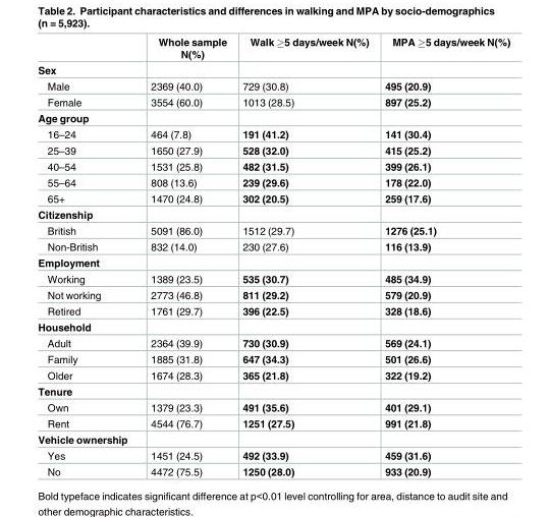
<table><thead><tr><td></td><td>Whole sample N(%)</td><td>Walk ≥5 days/week N(%)</td><td>MPA ≥5 days/week N(%)</td></tr></thead><tbody><tr><td colspan="4">Sex</td></tr><tr><td>Male</td><td>2369 (40.0)</td><td>729 (30.8)</td><td>495 (20.9)</td></tr><tr><td>Female</td><td>3554 (60.0)</td><td>1013 (28.5)</td><td>897 (25.2)</td></tr><tr><td colspan="4">Age group</td></tr><tr><td>16–24</td><td>464 (7.8)</td><td>191 (41.2)</td><td>141 (30.4)</td></tr><tr><td>25–39</td><td>1650 (27.9)</td><td>528 (32.0)</td><td>415 (25.2)</td></tr><tr><td>40–54</td><td>1531 (25.8)</td><td>482 (31.5)</td><td>399 (26.1)</td></tr><tr><td>55–64</td><td>808 (13.6)</td><td>239 (29.6)</td><td>178 (22.0)</td></tr><tr><td>65+</td><td>1470 (24.8)</td><td>302 (20.5)</td><td>259 (17.6)</td></tr><tr><td colspan="4">Citizenship</td></tr><tr><td>British</td><td>5091 (86.0)</td><td>1512 (29.7)</td><td>1276 (25.1)</td></tr><tr><td>Non-British</td><td>832 (14.0)</td><td>230 (27.6)</td><td>116 (13.9)</td></tr><tr><td colspan="4">Employment</td></tr><tr><td>Working</td><td>1389 (23.5)</td><td>535 (30.7)</td><td>485 (34.9)</td></tr><tr><td>Not working</td><td>2773 (46.8)</td><td>811 (29.2)</td><td>579 (20.9)</td></tr><tr><td>Retired</td><td>1761 (29.7)</td><td>396 (22.5)</td><td>328 (18.6)</td></tr><tr><td colspan="4">Household</td></tr><tr><td>Adult</td><td>2364 (39.9)</td><td>730 (30.9)</td><td>569 (24.1)</td></tr><tr><td>Family</td><td>1885 (31.8)</td><td>647 (34.3)</td><td>501 (26.6)</td></tr><tr><td>Older</td><td>1674 (28.3)</td><td>365 (21.8)</td><td>322 (19.2)</td></tr><tr><td colspan="4">Tenure</td></tr><tr><td>Own</td><td>1379 (23.3)</td><td>491 (35.6)</td><td>401 (29.1)</td></tr><tr><td>Rent</td><td>4544 (76.7)</td><td>1251 (27.5)</td><td>991 (21.8)</td></tr><tr><td colspan="4">Vehicle ownership</td></tr><tr><td>Yes</td><td>1451 (24.5)</td><td>492 (33.9)</td><td>459 (31.6)</td></tr><tr><td>No</td><td>4472 (75.5)</td><td>1250 (28.0)</td><td>933 (20.9)</td></tr></tbody></table>